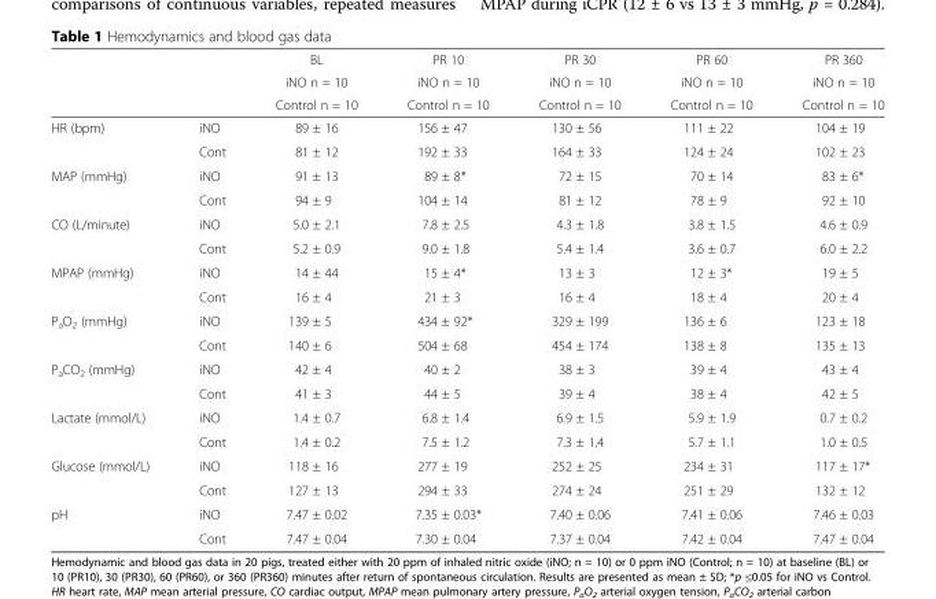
<table><thead><tr><td rowspan="3"></td><td rowspan="3"></td><td rowspan="3">BL iNO n = 10 Control n = 10</td><td rowspan="3">PR 10 iNO n = 10 Control n = 10</td><td rowspan="3">PR 30 iNO n = 10 Control n = 10</td><td rowspan="3">PR 60 iNO n = 10 Control n = 10</td><td rowspan="3">PR 360 iNO n = 10 Control n = 10</td></tr><tr></tr><tr></tr></thead><tbody><tr><td rowspan="2">HR (bpm)</td><td>iNO</td><td>89 ± 16</td><td>156 ± 47</td><td>130 ± 56</td><td>111 ± 22</td><td>104 ± 19</td></tr><tr><td>Cont</td><td>81 ± 12</td><td>192 ± 33</td><td>164 ± 33</td><td>124 ± 24</td><td>102 ± 23</td></tr><tr><td rowspan="2">MAP (mmHg)</td><td>iNO</td><td>91 ± 13</td><td>89 ± 8*</td><td>72 ± 15</td><td>70 ± 14</td><td>83 ± 6*</td></tr><tr><td>Cont</td><td>94 ± 9</td><td>104 ± 14</td><td>81 ± 12</td><td>78 ± 9</td><td>92 ± 10</td></tr><tr><td rowspan="2">CO (L/minute)</td><td>iNO</td><td>5.0 ± 2.1</td><td>7.8 ± 2.5</td><td>4.3 ± 1.8</td><td>3.8 ± 1.5</td><td>4.6 ± 0.9</td></tr><tr><td>Cont</td><td>5.2 ± 0.9</td><td>9.0 ± 1.8</td><td>5.4 ± 1.4</td><td>3.6 ± 0.7</td><td>6.0 ± 2.2</td></tr><tr><td rowspan="2">MPAP (mmHg)</td><td>iNO</td><td>14 ± 44</td><td>15 ± 4*</td><td>13 ± 3</td><td>12 ± 3*</td><td>19 ± 5</td></tr><tr><td>Cont</td><td>16 ± 4</td><td>21 ± 3</td><td>16 ± 4</td><td>18 ± 4</td><td>20 ± 4</td></tr><tr><td rowspan="2">P<sub>a</sub>O<sub>2</sub> (mmHg)</td><td>iNO</td><td>139 ± 5</td><td>434 ± 92*</td><td>329 ± 199</td><td>136 ± 6</td><td>123 ± 18</td></tr><tr><td>Cont</td><td>140 ± 6</td><td>504 ± 68</td><td>454 ± 174</td><td>138 ± 8</td><td>135 ± 13</td></tr><tr><td rowspan="2">P<sub>a</sub>CO<sub>2</sub> (mmHg)</td><td>iNO</td><td>42 ± 4</td><td>40 ± 2</td><td>38 ± 3</td><td>39 ± 4</td><td>43 ± 4</td></tr><tr><td>Cont</td><td>41 ± 3</td><td>44 ± 5</td><td>39 ± 4</td><td>38 ± 4</td><td>42 ± 5</td></tr><tr><td rowspan="2">Lactate (mmol/L)</td><td>iNO</td><td>1.4 ± 0.7</td><td>6.8 ± 1.4</td><td>6.9 ± 1.5</td><td>5.9 ± 1.9</td><td>0.7 ± 0.2</td></tr><tr><td>Cont</td><td>1.4 ± 0.2</td><td>7.5 ± 1.2</td><td>7.3 ± 1.4</td><td>5.7 ± 1.1</td><td>1.0 ± 0.5</td></tr><tr><td rowspan="2">Glucose (mmol/L)</td><td>iNO</td><td>118 ± 16</td><td>277 ± 19</td><td>252 ± 25</td><td>234 ± 31</td><td>117 ± 17*</td></tr><tr><td>Cont</td><td>127 ± 13</td><td>294 ± 33</td><td>274 ± 24</td><td>251 ± 29</td><td>132 ± 12</td></tr><tr><td rowspan="2">pH</td><td>iNO</td><td>7.47 ± 0.02</td><td>7.35 ± 0.03*</td><td>7.40 ± 0.06</td><td>7.41 ± 0.06</td><td>7.46 ± 0.03</td></tr><tr><td>Cont</td><td>7.47 ± 0.04</td><td>7.30 ± 0.04</td><td>7.37 ± 0.04</td><td>7.42 ± 0.04</td><td>7.47 ± 0.04</td></tr></tbody></table>